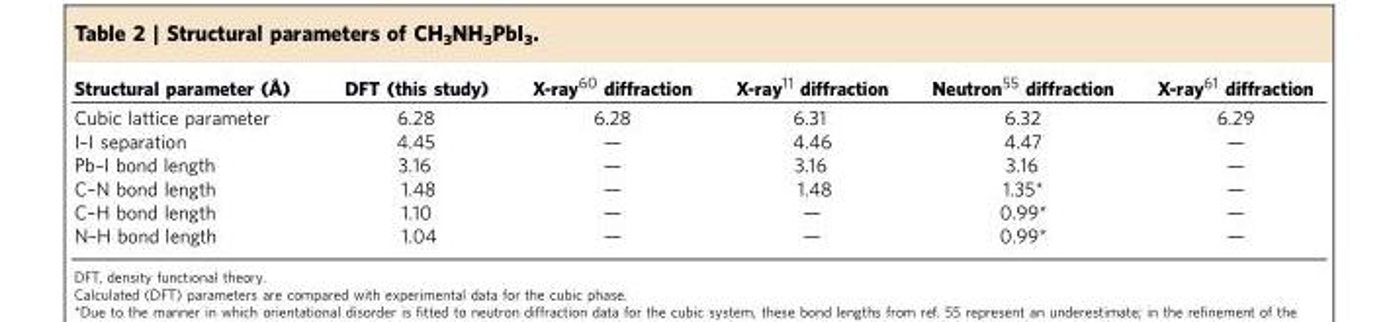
<table><thead><tr><td>Structural parameter (Å)</td><td>DFT (this study)</td><td>X-ray<sup>60</sup> diffraction</td><td>X-ray<sup>11</sup> diffraction</td><td>Neutron<sup>55</sup> diffraction</td><td>X-ray<sup>61</sup> diffraction</td></tr></thead><tbody><tr><td>Cubic lattice parameter</td><td>6.28</td><td>6.28</td><td>6.31</td><td>6.32</td><td>6.29</td></tr><tr><td>I–I separation</td><td>4.45</td><td>—</td><td>4.46</td><td>4.47</td><td>—</td></tr><tr><td>Pb–I bond length</td><td>3.16</td><td>—</td><td>3.16</td><td>3.16</td><td>—</td></tr><tr><td>C–N bond length</td><td>1.48</td><td>—</td><td>1.48</td><td>1.35*</td><td>—</td></tr><tr><td>C–H bond length</td><td>1.10</td><td>—</td><td>—</td><td>0.99*</td><td>—</td></tr><tr><td>N–H bond length</td><td>1.04</td><td>—</td><td>—</td><td>0.99*</td><td>—</td></tr></tbody></table>